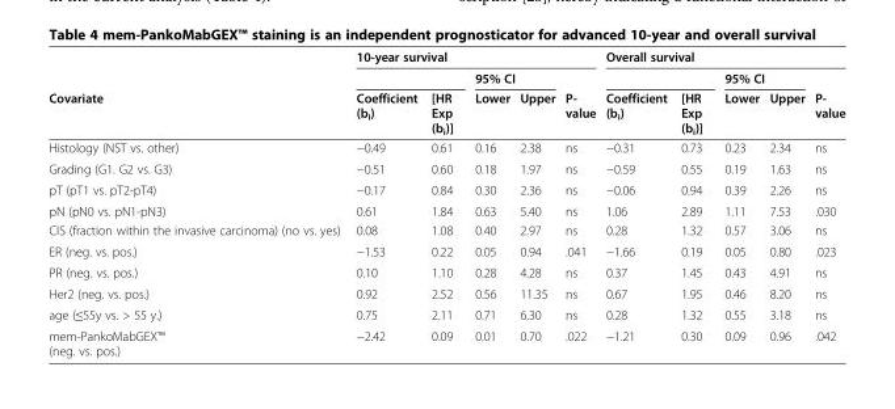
<table><thead><tr><td rowspan="3">Covariate</td><td colspan="5">10-year survival</td><td colspan="5">Overall survival</td></tr><tr><td rowspan="2">Coefficient (b<sub>i</sub>)</td><td rowspan="2">[HR Exp (b<sub>i</sub>)]</td><td colspan="2">95% CI</td><td rowspan="2">P- value</td><td rowspan="2">Coefficient (b<sub>i</sub>)</td><td rowspan="2">[HR Exp (b<sub>i</sub>)]</td><td colspan="2">95% CI</td><td rowspan="2">P- value</td></tr><tr><td>Lower</td><td>Upper</td><td>Lower</td><td>Upper</td></tr></thead><tbody><tr><td>Histology (NST vs. other)</td><td>−0.49</td><td>0.61</td><td>0.16</td><td>2.38</td><td>ns</td><td>−0.31</td><td>0.73</td><td>0.23</td><td>2.34</td><td>ns</td></tr><tr><td>Grading (G1. G2 vs. G3)</td><td>−0.51</td><td>0.60</td><td>0.18</td><td>1.97</td><td>ns</td><td>−0.59</td><td>0.55</td><td>0.19</td><td>1.63</td><td>ns</td></tr><tr><td>pT (pT1 vs. pT2-pT4)</td><td>−0.17</td><td>0.84</td><td>0.30</td><td>2.36</td><td>ns</td><td>−0.06</td><td>0.94</td><td>0.39</td><td>2.26</td><td>ns</td></tr><tr><td>pN (pN0 vs. pN1-pN3)</td><td>0.61</td><td>1.84</td><td>0.63</td><td>5.40</td><td>ns</td><td>1.06</td><td>2.89</td><td>1.11</td><td>7.53</td><td>.030</td></tr><tr><td>CIS (fraction within the invasive carcinoma) (no vs. yes)</td><td>0.08</td><td>1.08</td><td>0.40</td><td>2.97</td><td>ns</td><td>0.28</td><td>1.32</td><td>0.57</td><td>3.06</td><td>ns</td></tr><tr><td>ER (neg. vs. pos.)</td><td>−1.53</td><td>0.22</td><td>0.05</td><td>0.94</td><td>.041</td><td>−1.66</td><td>0.19</td><td>0.05</td><td>0.80</td><td>.023</td></tr><tr><td>PR (neg. vs. pos.)</td><td>0.10</td><td>1.10</td><td>0.28</td><td>4.28</td><td>ns</td><td>0.37</td><td>1.45</td><td>0.43</td><td>4.91</td><td>ns</td></tr><tr><td>Her2 (neg. vs. pos.)</td><td>0.92</td><td>2.52</td><td>0.56</td><td>11.35</td><td>ns</td><td>0.67</td><td>1.95</td><td>0.46</td><td>8.20</td><td>ns</td></tr><tr><td>age (≤55y vs. &gt; 55 y.)</td><td>0.75</td><td>2.11</td><td>0.71</td><td>6.30</td><td>ns</td><td>0.28</td><td>1.32</td><td>0.55</td><td>3.18</td><td>ns</td></tr><tr><td>mem-PankoMabGEX™ (neg. vs. pos.)</td><td>−2.42</td><td>0.09</td><td>0.01</td><td>0.70</td><td>.022</td><td>−1.21</td><td>0.30</td><td>0.09</td><td>0.96</td><td>.042</td></tr></tbody></table>